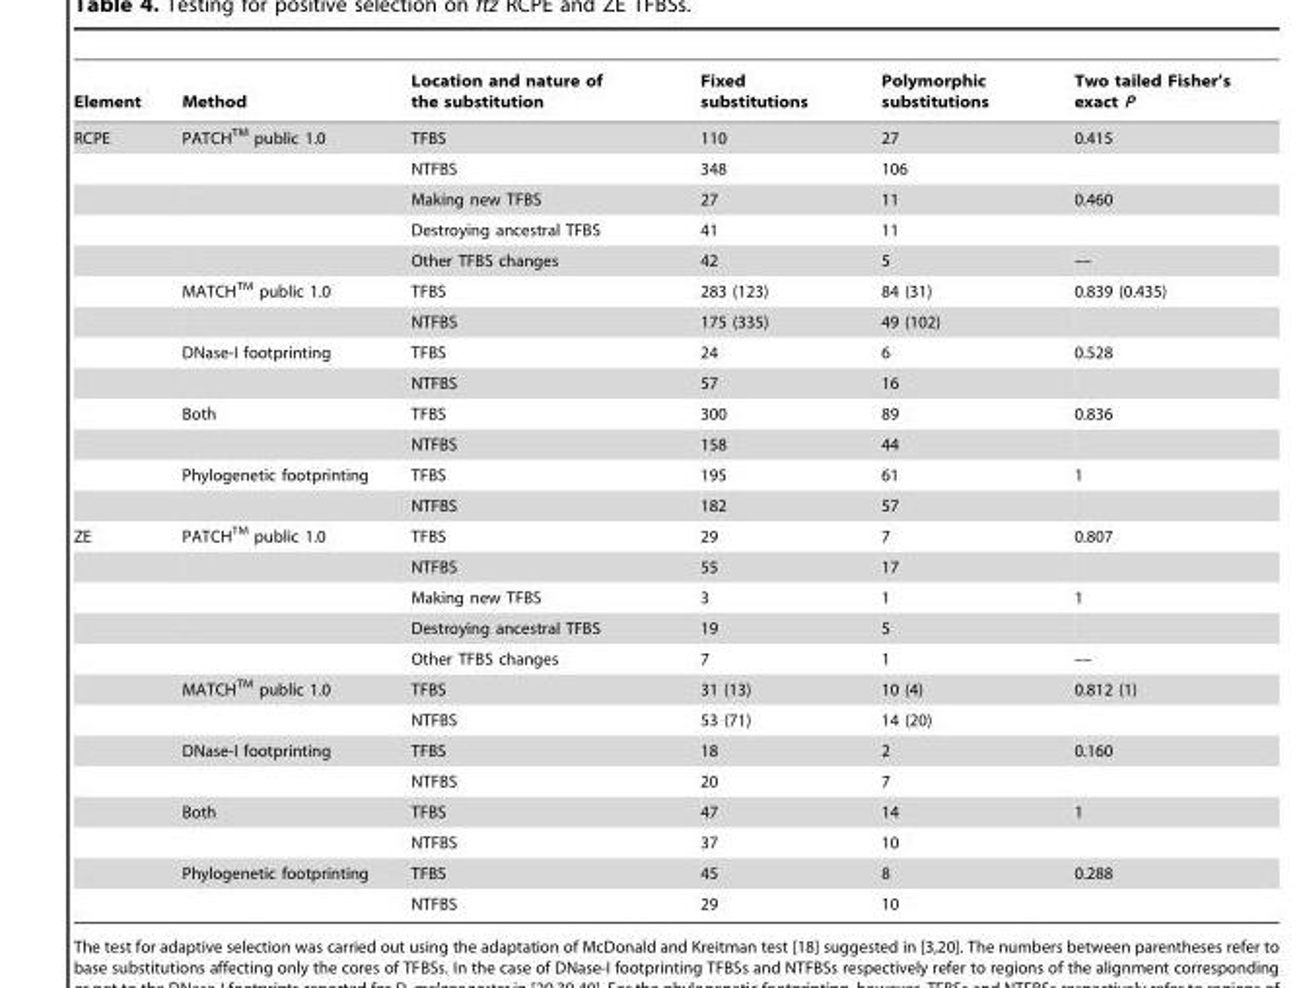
<table><thead><tr><td>Element</td><td>Method</td><td>Location and nature of the substitution</td><td>Fixed substitutions</td><td>Polymorphic substitutions</td><td>Two tailed Fisher’s exact P</td></tr></thead><tbody><tr><td rowspan="13">RCPE</td><td>PATCHTM public 1.0</td><td>TFBS</td><td>110</td><td>27</td><td>0.415</td></tr><tr><td></td><td>NTFBS</td><td>348</td><td>106</td><td></td></tr><tr><td></td><td>Making new TFBS</td><td>27</td><td>11</td><td>0.460</td></tr><tr><td></td><td>Destroying ancestral TFBS</td><td>41</td><td>11</td><td></td></tr><tr><td></td><td>Other TFBS changes</td><td>42</td><td>5</td><td>––</td></tr><tr><td>MATCHTM public 1.0</td><td>TFBS</td><td>283 (123)</td><td>84 (31)</td><td>0.839 (0.435)</td></tr><tr><td></td><td>NTFBS</td><td>175 (335)</td><td>49 (102)</td><td></td></tr><tr><td>DNase-I footprinting</td><td>TFBS</td><td>24</td><td>6</td><td>0.528</td></tr><tr><td></td><td>NTFBS</td><td>57</td><td>16</td><td></td></tr><tr><td>Both</td><td>TFBS</td><td>300</td><td>89</td><td>0.836</td></tr><tr><td></td><td>NTFBS</td><td>158</td><td>44</td><td></td></tr><tr><td>Phylogenetic footprinting</td><td>TFBS</td><td>195</td><td>61</td><td>1</td></tr><tr><td></td><td>NTFBS</td><td>182</td><td>57</td><td></td></tr><tr><td rowspan="13">ZE</td><td>PATCHTM public 1.0</td><td>TFBS</td><td>29</td><td>7</td><td>0.807</td></tr><tr><td></td><td>NTFBS</td><td>55</td><td>17</td><td></td></tr><tr><td></td><td>Making new TFBS</td><td>3</td><td>1</td><td>1</td></tr><tr><td></td><td>Destroying ancestral TFBS</td><td>19</td><td>5</td><td></td></tr><tr><td></td><td>Other TFBS changes</td><td>7</td><td>1</td><td>––</td></tr><tr><td>MATCHTM public 1.0</td><td>TFBS</td><td>31 (13)</td><td>10 (4)</td><td>0.812 (1)</td></tr><tr><td></td><td>NTFBS</td><td>53 (71)</td><td>14 (20)</td><td></td></tr><tr><td>DNase-I footprinting</td><td>TFBS</td><td>18</td><td>2</td><td>0.160</td></tr><tr><td></td><td>NTFBS</td><td>20</td><td>7</td><td></td></tr><tr><td>Both</td><td>TFBS</td><td>47</td><td>14</td><td>1</td></tr><tr><td></td><td>NTFBS</td><td>37</td><td>10</td><td></td></tr><tr><td>Phylogenetic footprinting</td><td>TFBS</td><td>45</td><td>8</td><td>0.288</td></tr><tr><td></td><td>NTFBS</td><td>29</td><td>10</td><td></td></tr></tbody></table>